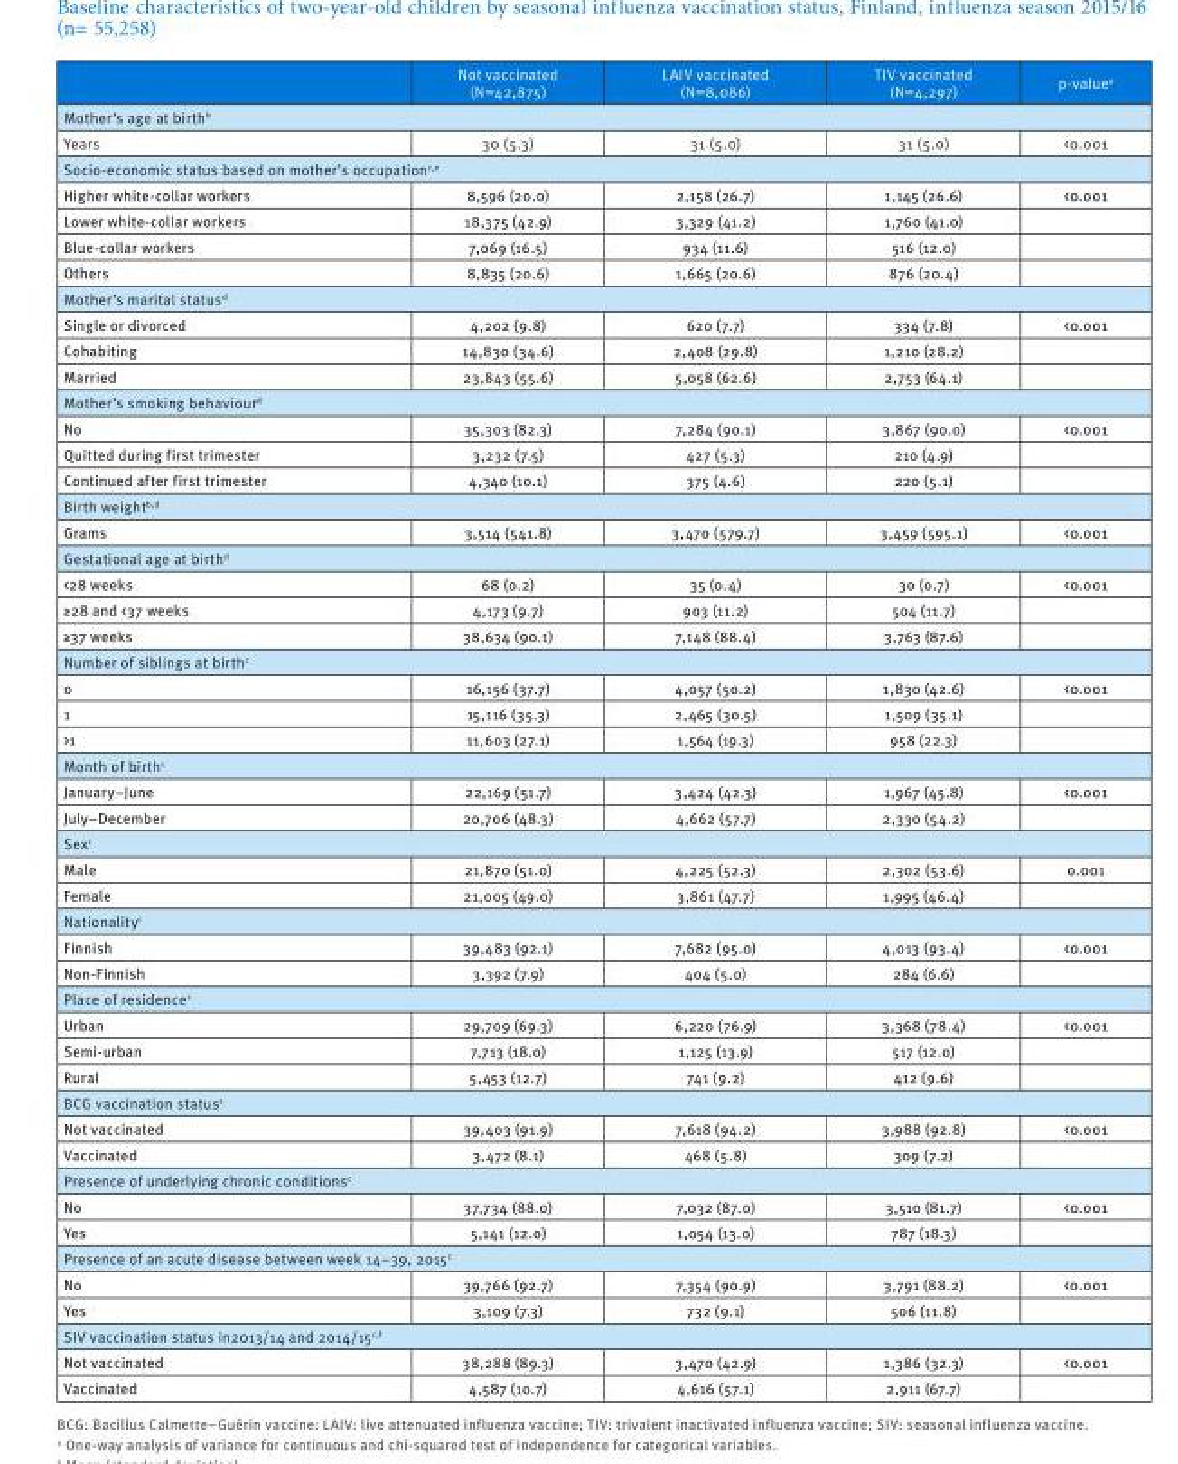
<table><thead><tr><td></td><td>Not vaccinated (N=42,875)</td><td>LAIV vaccinated (N=8,086)</td><td>TIV vaccinated (N=4,297)</td><td>p-value<sup>a</sup></td></tr></thead><tbody><tr><td colspan="5">Mother’s age at birth<sup>b</sup></td></tr><tr><td>Years</td><td>30 (5.3)</td><td>31 (5.0)</td><td>31 (5.0)</td><td>&lt;0.001</td></tr><tr><td colspan="5">Socio-economic status based on mother’s occupation<sup>c,e</sup></td></tr><tr><td>Higher white-collar workers</td><td>8,596 (20.0)</td><td>2,158 (26.7)</td><td>1,145 (26.6)</td><td>&lt;0.001</td></tr><tr><td>Lower white-collar workers</td><td>18,375 (42.9)</td><td>3,329 (41.2)</td><td>1,760 (41.0)</td><td></td></tr><tr><td>Blue-collar workers</td><td>7,069 (16.5)</td><td>934 (11.6)</td><td>516 (12.0)</td><td></td></tr><tr><td>Others</td><td>8,835 (20.6)</td><td>1,665 (20.6)</td><td>876 (20.4)</td><td></td></tr><tr><td colspan="5">Mother’s marital status<sup>d</sup></td></tr><tr><td>Single or divorced</td><td>4,202 (9.8)</td><td>620 (7.7)</td><td>334 (7.8)</td><td>&lt;0.001</td></tr><tr><td>Cohabiting</td><td>14,830 (34.6)</td><td>2,408 (29.8)</td><td>1,210 (28.2)</td><td></td></tr><tr><td>Married</td><td>23,843 (55.6)</td><td>5,058 (62.6)</td><td>2,753 (64.1)</td><td></td></tr><tr><td colspan="5">Mother’s smoking behaviour<sup>d</sup></td></tr><tr><td>No</td><td>35,303 (82.3)</td><td>7,284 (90.1)</td><td>3,867 (90.0)</td><td>&lt;0.001</td></tr><tr><td>Quitted during first trimester</td><td>3,232 (7.5)</td><td>427 (5.3)</td><td>210 (4.9)</td><td></td></tr><tr><td>Continued after first trimester</td><td>4,340 (10.1)</td><td>375 (4.6)</td><td>220 (5.1)</td><td></td></tr><tr><td colspan="5">Birth weight<sup>b,d</sup></td></tr><tr><td>Grams</td><td>3,514 (541.8)</td><td>3,470 (579.7)</td><td>3,459 (595.1)</td><td>&lt;0.001</td></tr><tr><td colspan="5">Gestational age at birth<sup>d</sup></td></tr><tr><td>&lt;28 weeks</td><td>68 (0.2)</td><td>35 (0.4)</td><td>30 (0.7)</td><td>&lt;0.001</td></tr><tr><td>≥28 and &lt;37 weeks</td><td>4,173 (9.7)</td><td>903 (11.2)</td><td>504 (11.7)</td><td></td></tr><tr><td>≥37 weeks</td><td>38,634 (90.1)</td><td>7,148 (88.4)</td><td>3,763 (87.6)</td><td></td></tr><tr><td colspan="5">Number of siblings at birth<sup>c</sup></td></tr><tr><td>0</td><td>16,156 (37.7)</td><td>4,057 (50.2)</td><td>1,830 (42.6)</td><td>&lt;0.001</td></tr><tr><td>1</td><td>15,116 (35.3)</td><td>2,465 (30.5)</td><td>1,509 (35.1)</td><td></td></tr><tr><td>&gt;1</td><td>11,603 (27.1)</td><td>1,564 (19.3)</td><td>958 (22.3)</td><td></td></tr><tr><td colspan="5">Month of birth<sup>c</sup></td></tr><tr><td>January–June</td><td>22,169 (51.7)</td><td>3,424 (42.3)</td><td>1,967 (45.8)</td><td>&lt;0.001</td></tr><tr><td>July–December</td><td>20,706 (48.3)</td><td>4,662 (57.7)</td><td>2,330 (54.2)</td><td></td></tr><tr><td colspan="5">Sex<sup>c</sup></td></tr><tr><td>Male</td><td>21,870 (51.0)</td><td>4,225 (52.3)</td><td>2,302 (53.6)</td><td>0.001</td></tr><tr><td>Female</td><td>21,005 (49.0)</td><td>3,861 (47.7)</td><td>1,995 (46.4)</td><td></td></tr><tr><td colspan="5">Nationality<sup>c</sup></td></tr><tr><td>Finnish</td><td>39,483 (92.1)</td><td>7,682 (95.0)</td><td>4,013 (93.4)</td><td>&lt;0.001</td></tr><tr><td>Non-Finnish</td><td>3,392 (7.9)</td><td>404 (5.0)</td><td>284 (6.6)</td><td></td></tr><tr><td colspan="5">Place of residence<sup>c</sup></td></tr><tr><td>Urban</td><td>29,709 (69.3)</td><td>6,220 (76.9)</td><td>3,368 (78.4)</td><td>&lt;0.001</td></tr><tr><td>Semi-urban</td><td>7,713 (18.0)</td><td>1,125 (13.9)</td><td>517 (12.0)</td><td></td></tr><tr><td>Rural</td><td>5,453 (12.7)</td><td>741 (9.2)</td><td>412 (9.6)</td><td></td></tr><tr><td colspan="5">BCG vaccination status<sup>c</sup></td></tr><tr><td>Not vaccinated</td><td>39,403 (91.9)</td><td>7,618 (94.2)</td><td>3,988 (92.8)</td><td>&lt;0.001</td></tr><tr><td>Vaccinated</td><td>3,472 (8.1)</td><td>468 (5.8)</td><td>309 (7.2)</td><td></td></tr><tr><td colspan="5">Presence of underlying chronic conditions<sup>c</sup></td></tr><tr><td>No</td><td>37,734 (88.0)</td><td>7,032 (87.0)</td><td>3,510 (81.7)</td><td>&lt;0.001</td></tr><tr><td>Yes</td><td>5,141 (12.0)</td><td>1,054 (13.0)</td><td>787 (18.3)</td><td></td></tr><tr><td colspan="5">Presence of an acute disease between week 14–39, 2015<sup>c</sup></td></tr><tr><td>No</td><td>39,766 (92.7)</td><td>7,354 (90.9)</td><td>3,791 (88.2)</td><td>&lt;0.001</td></tr><tr><td>Yes</td><td>3,109 (7.3)</td><td>732 (9.1)</td><td>506 (11.8)</td><td></td></tr><tr><td colspan="5">SIV vaccination status in2013/14 and 2014/15<sup>c,f</sup></td></tr><tr><td>Not vaccinated</td><td>38,288 (89.3)</td><td>3,470 (42.9)</td><td>1,386 (32.3)</td><td>&lt;0.001</td></tr><tr><td>Vaccinated</td><td>4,587 (10.7)</td><td>4,616 (57.1)</td><td>2,911 (67.7)</td><td></td></tr></tbody></table>